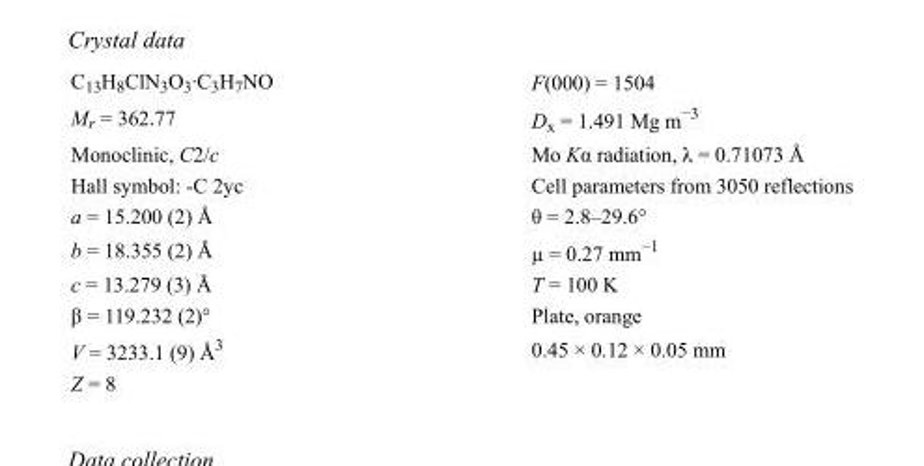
<table><tbody><tr><td>C<sub>13</sub>H<sub>8</sub>ClN<sub>3</sub>O<sub>3</sub>·C<sub>3</sub>H<sub>7</sub>NO</td><td>F(000) = 1504</td></tr><tr><td>M<sub>r</sub> = 362.77</td><td>D<sub>x</sub> = 1.491 Mg m<sup>−3</sup></td></tr><tr><td>Monoclinic, C2/c</td><td>Mo Kα radiation, λ = 0.71073 Å</td></tr><tr><td>Hall symbol: -C 2yc</td><td>Cell parameters from 3050 reflections</td></tr><tr><td>a = 15.200 (2) Å</td><td>θ = 2.8–29.6°</td></tr><tr><td>b = 18.355 (2) Å</td><td>µ = 0.27 mm<sup>−1</sup></td></tr><tr><td>c = 13.279 (3) Å</td><td>T = 100 K</td></tr><tr><td>β = 119.232 (2)°</td><td>Plate, orange</td></tr><tr><td>V = 3233.1 (9) Å<sup>3</sup></td><td>0.45 × 0.12 × 0.05 mm</td></tr><tr><td>Z = 8</td><td></td></tr></tbody></table>